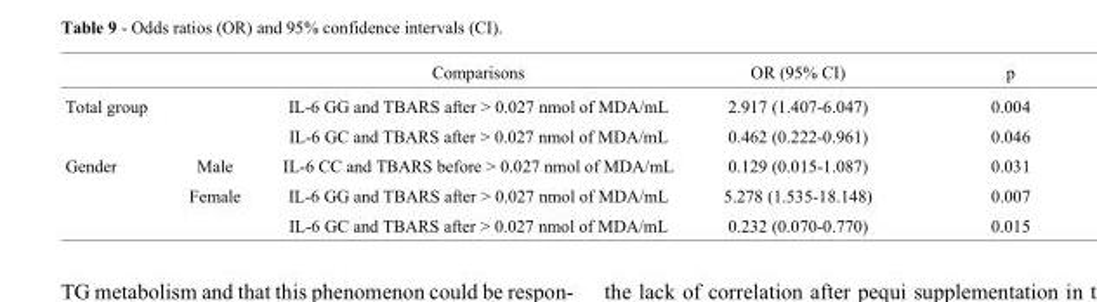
<table><thead><tr><td></td><td></td><td>Comparisons</td><td>OR (95% CI)</td><td>p</td></tr></thead><tbody><tr><td rowspan="2">Total group</td><td></td><td>IL-6 GG and TBARS after &gt; 0.027 nmol of MDA/mL</td><td>2.917 (1.407-6.047)</td><td>0.004</td></tr><tr><td></td><td>IL-6 GC and TBARS after &gt; 0.027 nmol of MDA/mL</td><td>0.462 (0.222-0.961)</td><td>0.046</td></tr><tr><td rowspan="3">Gender</td><td>Male</td><td>IL-6 CC and TBARS before &gt; 0.027 nmol of MDA/mL</td><td>0.129 (0.015-1.087)</td><td>0.031</td></tr><tr><td>Female</td><td>IL-6 GG and TBARS after &gt; 0.027 nmol of MDA/mL</td><td>5.278 (1.535-18.148)</td><td>0.007</td></tr><tr><td></td><td>IL-6 GC and TBARS after &gt; 0.027 nmol of MDA/mL</td><td>0.232 (0.070-0.770)</td><td>0.015</td></tr></tbody></table>